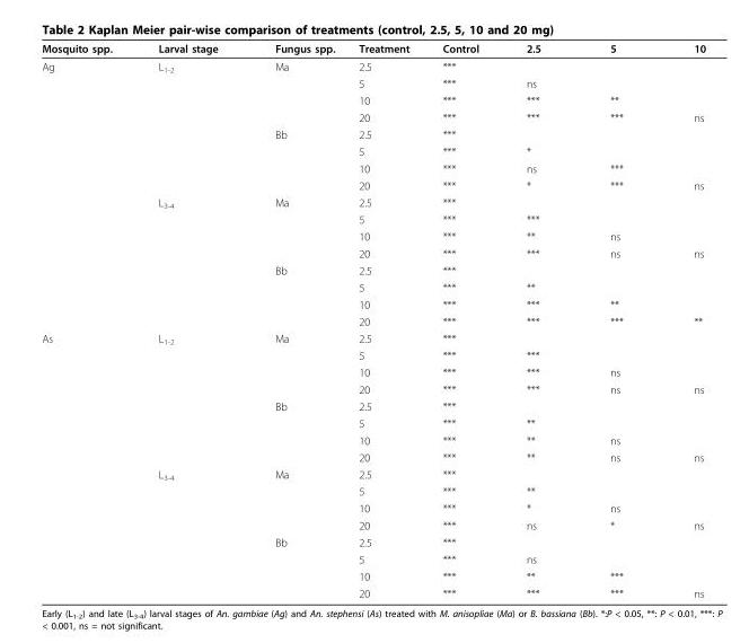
<table><thead><tr><td>Mosquito spp.</td><td>Larval stage</td><td>Fungus spp.</td><td>Treatment</td><td>Control</td><td>2.5</td><td>5</td><td>10</td></tr></thead><tbody><tr><td rowspan="16">Ag</td><td>L<sub>1-2</sub></td><td>Ma</td><td>2.5</td><td>***</td><td></td><td></td><td></td></tr><tr><td></td><td></td><td>5</td><td>***</td><td>ns</td><td></td><td></td></tr><tr><td></td><td></td><td>10</td><td>***</td><td>***</td><td>**</td><td></td></tr><tr><td></td><td></td><td>20</td><td>***</td><td>***</td><td>***</td><td>ns</td></tr><tr><td></td><td>Bb</td><td>2.5</td><td>***</td><td></td><td></td><td></td></tr><tr><td></td><td></td><td>5</td><td>***</td><td>*</td><td></td><td></td></tr><tr><td></td><td></td><td>10</td><td>***</td><td>ns</td><td>***</td><td></td></tr><tr><td></td><td></td><td>20</td><td>***</td><td>*</td><td>***</td><td>ns</td></tr><tr><td>L<sub>3-4</sub></td><td>Ma</td><td>2.5</td><td>***</td><td></td><td></td><td></td></tr><tr><td></td><td></td><td>5</td><td>***</td><td>***</td><td></td><td></td></tr><tr><td></td><td></td><td>10</td><td>***</td><td>**</td><td>ns</td><td></td></tr><tr><td></td><td></td><td>20</td><td>***</td><td>***</td><td>ns</td><td>ns</td></tr><tr><td></td><td>Bb</td><td>2.5</td><td>***</td><td></td><td></td><td></td></tr><tr><td></td><td></td><td>5</td><td>***</td><td>**</td><td></td><td></td></tr><tr><td></td><td></td><td>10</td><td>***</td><td>***</td><td>**</td><td></td></tr><tr><td></td><td></td><td>20</td><td>***</td><td>***</td><td>***</td><td>**</td></tr><tr><td rowspan="16">As</td><td>L<sub>1-2</sub></td><td>Ma</td><td>2.5</td><td>***</td><td></td><td></td><td></td></tr><tr><td></td><td></td><td>5</td><td>***</td><td>***</td><td></td><td></td></tr><tr><td></td><td></td><td>10</td><td>***</td><td>***</td><td>ns</td><td></td></tr><tr><td></td><td></td><td>20</td><td>***</td><td>***</td><td>ns</td><td>ns</td></tr><tr><td></td><td>Bb</td><td>2.5</td><td>***</td><td></td><td></td><td></td></tr><tr><td></td><td></td><td>5</td><td>***</td><td>**</td><td></td><td></td></tr><tr><td></td><td></td><td>10</td><td>***</td><td>**</td><td>ns</td><td></td></tr><tr><td></td><td></td><td>20</td><td>***</td><td>**</td><td>ns</td><td>ns</td></tr><tr><td>L<sub>3-4</sub></td><td>Ma</td><td>2.5</td><td>***</td><td></td><td></td><td></td></tr><tr><td></td><td></td><td>5</td><td>***</td><td>**</td><td></td><td></td></tr><tr><td></td><td></td><td>10</td><td>***</td><td>*</td><td>ns</td><td></td></tr><tr><td></td><td></td><td>20</td><td>***</td><td>ns</td><td>*</td><td>ns</td></tr><tr><td></td><td>Bb</td><td>2.5</td><td>***</td><td></td><td></td><td></td></tr><tr><td></td><td></td><td>5</td><td>***</td><td>ns</td><td></td><td></td></tr><tr><td></td><td></td><td>10</td><td>***</td><td>**</td><td>***</td><td></td></tr><tr><td></td><td></td><td>20</td><td>***</td><td>***</td><td>***</td><td>ns</td></tr></tbody></table>